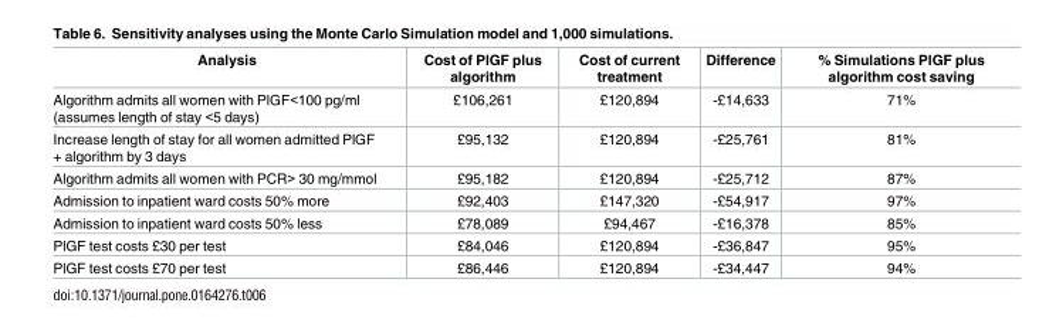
<table><thead><tr><td>Analysis</td><td>Cost of PlGF plus algorithm</td><td>Cost of current treatment</td><td>Difference</td><td>% Simulations PlGF plus algorithm cost saving</td></tr></thead><tbody><tr><td>Algorithm admits all women with PlGF&lt;100 pg/ml (assumes length of stay &lt;5 days)</td><td>£106,261</td><td>£120,894</td><td>-£14,633</td><td>71%</td></tr><tr><td>Increase length of stay for all women admitted PlGF + algorithm by 3 days</td><td>£95,132</td><td>£120,894</td><td>-£25,761</td><td>81%</td></tr><tr><td>Algorithm admits all women with PCR&gt; 30 mg/mmol</td><td>£95,182</td><td>£120,894</td><td>-£25,712</td><td>87%</td></tr><tr><td>Admission to inpatient ward costs 50% more</td><td>£92,403</td><td>£147,320</td><td>-£54,917</td><td>97%</td></tr><tr><td>Admission to inpatient ward costs 50% less</td><td>£78,089</td><td>£94,467</td><td>-£16,378</td><td>85%</td></tr><tr><td>PlGF test costs £30 per test</td><td>£84,046</td><td>£120,894</td><td>-£36,847</td><td>95%</td></tr><tr><td>PlGF test costs £70 per test</td><td>£86,446</td><td>£120,894</td><td>-£34,447</td><td>94%</td></tr></tbody></table>